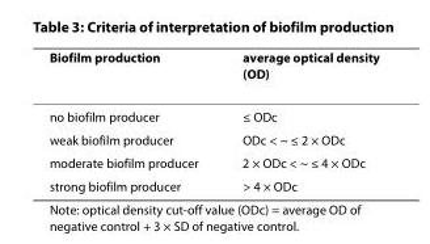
<table><thead><tr><td>Biofilm production</td><td>average optical density (OD)</td></tr></thead><tbody><tr><td>no biofilm producer</td><td>≤ ODc</td></tr><tr><td>weak biofilm producer</td><td>ODc &lt; ~ ≤ 2 × ODc</td></tr><tr><td>moderate biofilm producer</td><td>2 × ODc &lt; ~ ≤ 4 × ODc</td></tr><tr><td>strong biofilm producer</td><td>&gt; 4 × ODc</td></tr></tbody></table>